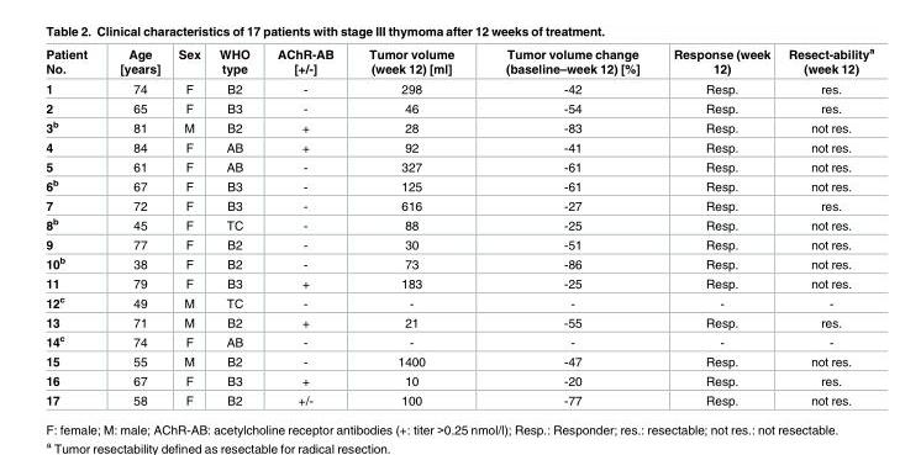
<table><thead><tr><td>Patient No.</td><td>Age [years]</td><td>Sex</td><td>WHO type</td><td>AChR-AB [+/-]</td><td>Tumor volume (week 12) [ml]</td><td>Tumor volume change (baseline–week 12) [%]</td><td>Response (week 12)</td><td>Resect-ability<sup>a</sup> (week 12)</td></tr></thead><tbody><tr><td>1</td><td>74</td><td>F</td><td>B2</td><td>-</td><td>298</td><td>-42</td><td>Resp.</td><td>res.</td></tr><tr><td>2</td><td>65</td><td>F</td><td>B3</td><td>-</td><td>46</td><td>-54</td><td>Resp.</td><td>res.</td></tr><tr><td>3<sup>b</sup></td><td>81</td><td>M</td><td>B2</td><td>+</td><td>28</td><td>-83</td><td>Resp.</td><td>not res.</td></tr><tr><td>4</td><td>84</td><td>F</td><td>AB</td><td>+</td><td>92</td><td>-41</td><td>Resp.</td><td>not res.</td></tr><tr><td>5</td><td>61</td><td>F</td><td>AB</td><td>-</td><td>327</td><td>-61</td><td>Resp.</td><td>not res.</td></tr><tr><td>6<sup>b</sup></td><td>67</td><td>F</td><td>B3</td><td>-</td><td>125</td><td>-61</td><td>Resp.</td><td>not res.</td></tr><tr><td>7</td><td>72</td><td>F</td><td>B3</td><td>-</td><td>616</td><td>-27</td><td>Resp.</td><td>res.</td></tr><tr><td>8<sup>b</sup></td><td>45</td><td>F</td><td>TC</td><td>-</td><td>88</td><td>-25</td><td>Resp.</td><td>not res.</td></tr><tr><td>9</td><td>77</td><td>F</td><td>B2</td><td>-</td><td>30</td><td>-51</td><td>Resp.</td><td>not res.</td></tr><tr><td>10<sup>b</sup></td><td>38</td><td>F</td><td>B2</td><td>-</td><td>73</td><td>-86</td><td>Resp.</td><td>not res.</td></tr><tr><td>11</td><td>79</td><td>F</td><td>B3</td><td>+</td><td>183</td><td>-25</td><td>Resp.</td><td>not res.</td></tr><tr><td>12<sup>c</sup></td><td>49</td><td>M</td><td>TC</td><td>-</td><td>-</td><td>-</td><td>-</td><td>-</td></tr><tr><td>13</td><td>71</td><td>M</td><td>B2</td><td>+</td><td>21</td><td>-55</td><td>Resp.</td><td>res.</td></tr><tr><td>14<sup>c</sup></td><td>74</td><td>F</td><td>AB</td><td>-</td><td>-</td><td>-</td><td>-</td><td>-</td></tr><tr><td>15</td><td>55</td><td>M</td><td>B2</td><td>-</td><td>1400</td><td>-47</td><td>Resp.</td><td>not res.</td></tr><tr><td>16</td><td>67</td><td>F</td><td>B3</td><td>+</td><td>10</td><td>-20</td><td>Resp.</td><td>res.</td></tr><tr><td>17</td><td>58</td><td>F</td><td>B2</td><td>+/-</td><td>100</td><td>-77</td><td>Resp.</td><td>not res.</td></tr></tbody></table>